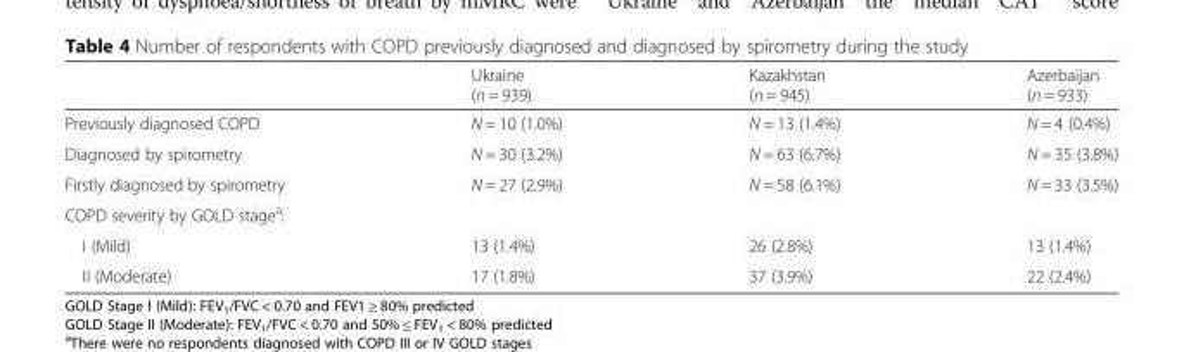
<table><thead><tr><td></td><td>Ukraine (n = 939)</td><td>Kazakhstan (n = 945)</td><td>Azerbaijan (n = 933)</td></tr></thead><tbody><tr><td>Previously diagnosed COPD</td><td>N = 10 (1.0%)</td><td>N = 13 (1.4%)</td><td>N = 4 (0.4%)</td></tr><tr><td>Diagnosed by spirometry</td><td>N = 30 (3.2%)</td><td>N = 63 (6.7%)</td><td>N = 35 (3.8%)</td></tr><tr><td>Firstly diagnosed by spirometry</td><td>N = 27 (2.9%)</td><td>N = 58 (6.1%)</td><td>N = 33 (3.5%)</td></tr><tr><td colspan="4">COPD severity by GOLD stage<sup>a</sup>:</td></tr><tr><td>I (Mild)</td><td>13 (1.4%)</td><td>26 (2.8%)</td><td>13 (1.4%)</td></tr><tr><td>II (Moderate)</td><td>17 (1.8%)</td><td>37 (3.9%)</td><td>22 (2.4%)</td></tr></tbody></table>